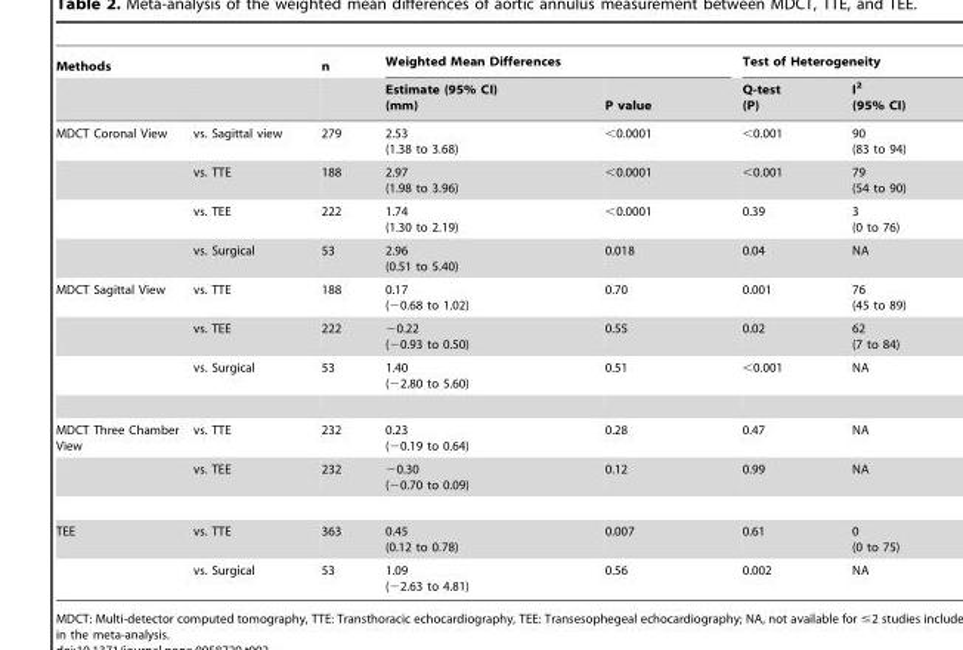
<table><thead><tr><td rowspan="2">Methods</td><td rowspan="2"></td><td rowspan="2">n</td><td colspan="2">Weighted Mean Differences</td><td colspan="2">Test of Heterogeneity</td></tr><tr><td>Estimate (95% CI) (mm)</td><td>P value</td><td>Q-test (P)</td><td>I<sup>2</sup> (95% CI)</td></tr></thead><tbody><tr><td rowspan="4">MDCT Coronal View</td><td>vs. Sagittal view</td><td>279</td><td>2.53 (1.38 to 3.68)</td><td>&lt;0.0001</td><td>&lt;0.001</td><td>90 (83 to 94)</td></tr><tr><td>vs. TTE</td><td>188</td><td>2.97 (1.98 to 3.96)</td><td>&lt;0.0001</td><td>&lt;0.001</td><td>79 (54 to 90)</td></tr><tr><td>vs. TEE</td><td>222</td><td>1.74 (1.30 to 2.19)</td><td>&lt;0.0001</td><td>0.39</td><td>3 (0 to 76)</td></tr><tr><td>vs. Surgical</td><td>53</td><td>2.96 (0.51 to 5.40)</td><td>0.018</td><td>0.04</td><td>NA</td></tr><tr><td rowspan="3">MDCT Sagittal View</td><td>vs. TTE</td><td>188</td><td>0.17 (−0.68 to 1.02)</td><td>0.70</td><td>0.001</td><td>76 (45 to 89)</td></tr><tr><td>vs. TEE</td><td>222</td><td>−0.22 (−0.93 to 0.50)</td><td>0.55</td><td>0.02</td><td>62 (7 to 84)</td></tr><tr><td>vs. Surgical</td><td>53</td><td>1.40 (−2.80 to 5.60)</td><td>0.51</td><td>&lt;0.001</td><td>NA</td></tr><tr><td rowspan="2">MDCT Three Chamber View</td><td>vs. TTE</td><td>232</td><td>0.23 (−0.19 to 0.64)</td><td>0.28</td><td>0.47</td><td>NA</td></tr><tr><td>vs. TEE</td><td>232</td><td>−0.30 (−0.70 to 0.09)</td><td>0.12</td><td>0.99</td><td>NA</td></tr><tr><td rowspan="2">TEE</td><td>vs. TTE</td><td>363</td><td>0.45 (0.12 to 0.78)</td><td>0.007</td><td>0.61</td><td>0 (0 to 75)</td></tr><tr><td>vs. Surgical</td><td>53</td><td>1.09 (−2.63 to 4.81)</td><td>0.56</td><td>0.002</td><td>NA</td></tr></tbody></table>